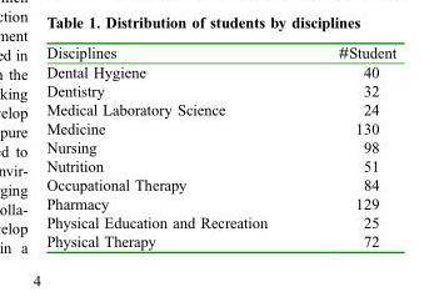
<table><thead><tr><td>Disciplines</td><td>#Student</td></tr></thead><tbody><tr><td>Dental Hygiene</td><td>40</td></tr><tr><td>Dentistry</td><td>32</td></tr><tr><td>Medical Laboratory Science</td><td>24</td></tr><tr><td>Medicine</td><td>130</td></tr><tr><td>Nursing</td><td>98</td></tr><tr><td>Nutrition</td><td>51</td></tr><tr><td>Occupational Therapy</td><td>84</td></tr><tr><td>Pharmacy</td><td>129</td></tr><tr><td>Physical Education and Recreation</td><td>25</td></tr><tr><td>Physical Therapy</td><td>72</td></tr></tbody></table>